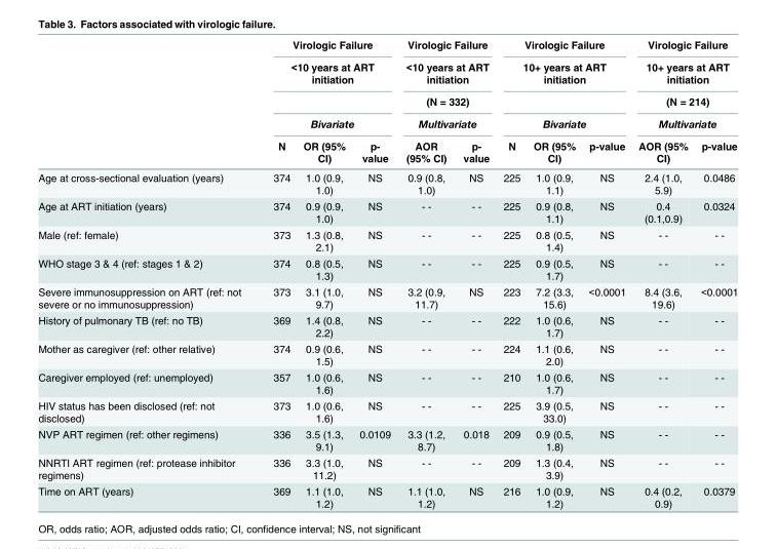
<table><thead><tr><td rowspan="5"></td><td rowspan="2" colspan="3">Virologic Failure &lt;10 years at ART initiation</td><td rowspan="4" colspan="2">Virologic Failure &lt;10 years at ART initiation (N = 332) Multivariate</td><td rowspan="2" colspan="3">Virologic Failure 10+ years at ART initiation</td><td rowspan="4" colspan="2">Virologic Failure 10+ years at ART initiation (N = 214) Multivariate</td></tr><tr></tr><tr><td></td><td></td><td></td><td></td><td></td><td></td></tr><tr><td colspan="3">Bivariate</td><td colspan="3">Bivariate</td></tr><tr><td>N</td><td>OR (95% CI)</td><td>p- value</td><td>AOR (95% CI)</td><td>p- value</td><td>N</td><td>OR (95% CI)</td><td>p-value</td><td>AOR (95% CI)</td><td>p-value</td></tr></thead><tbody><tr><td>Age at cross-sectional evaluation (years)</td><td>374</td><td>1.0 (0.9, 1.0)</td><td>NS</td><td>0.9 (0.8, 1.0)</td><td>NS</td><td>225</td><td>1.0 (0.9, 1.1)</td><td>NS</td><td>2.4 (1.0, 5.9)</td><td>0.0486</td></tr><tr><td>Age at ART initiation (years)</td><td>374</td><td>0.9 (0.9, 1.0)</td><td>NS</td><td>- -</td><td>- -</td><td>225</td><td>0.9 (0.8, 1.1)</td><td>NS</td><td>0.4 (0.1,0.9)</td><td>0.0324</td></tr><tr><td>Male (ref: female)</td><td>373</td><td>1.3 (0.8, 2.1)</td><td>NS</td><td>- -</td><td>- -</td><td>225</td><td>0.8 (0.5, 1.4)</td><td>NS</td><td>- -</td><td>- -</td></tr><tr><td>WHO stage 3 &amp; 4 (ref: stages 1 &amp; 2)</td><td>374</td><td>0.8 (0.5, 1.3)</td><td>NS</td><td>- -</td><td>- -</td><td>225</td><td>0.9 (0.5, 1.7)</td><td>NS</td><td>- -</td><td>- -</td></tr><tr><td>Severe immunosuppression on ART (ref: not severe or no immunosuppression)</td><td>373</td><td>3.1 (1.0, 9.7)</td><td>NS</td><td>3.2 (0.9, 11.7)</td><td>NS</td><td>223</td><td>7.2 (3.3, 15.6)</td><td>&lt;0.0001</td><td>8.4 (3.6, 19.6)</td><td>&lt;0.0001</td></tr><tr><td>History of pulmonary TB (ref: no TB)</td><td>369</td><td>1.4 (0.8, 2.2)</td><td>NS</td><td>- -</td><td>- -</td><td>222</td><td>1.0 (0.6, 1.7)</td><td>NS</td><td>- -</td><td>- -</td></tr><tr><td>Mother as caregiver (ref: other relative)</td><td>374</td><td>0.9 (0.6, 1.5)</td><td>NS</td><td>- -</td><td>- -</td><td>224</td><td>1.1 (0.6, 2.0)</td><td>NS</td><td>- -</td><td>- -</td></tr><tr><td>Caregiver employed (ref: unemployed)</td><td>357</td><td>1.0 (0.6, 1.6)</td><td>NS</td><td>- -</td><td>- -</td><td>210</td><td>1.0 (0.6, 1.7)</td><td>NS</td><td>- -</td><td>- -</td></tr><tr><td>HIV status has been disclosed (ref: not disclosed)</td><td>373</td><td>1.0 (0.6, 1.6)</td><td>NS</td><td>- -</td><td>- -</td><td>225</td><td>3.9 (0.5, 33.0)</td><td>NS</td><td>- -</td><td>- -</td></tr><tr><td>NVP ART regimen (ref: other regimens)</td><td>336</td><td>3.5 (1.3, 9.1)</td><td>0.0109</td><td>3.3 (1.2, 8.7)</td><td>0.018</td><td>209</td><td>0.9 (0.5, 1.8)</td><td>NS</td><td>- -</td><td>- -</td></tr><tr><td>NNRTI ART regimen (ref: protease inhibitor regimens)</td><td>336</td><td>3.3 (1.0, 11.2)</td><td>NS</td><td>- -</td><td>- -</td><td>209</td><td>1.3 (0.4, 3.9)</td><td>NS</td><td>- -</td><td>- -</td></tr><tr><td>Time on ART (years)</td><td>369</td><td>1.1 (1.0, 1.2)</td><td>NS</td><td>1.1 (1.0, 1.2)</td><td>NS</td><td>216</td><td>1.0 (0.9, 1.2)</td><td>NS</td><td>0.4 (0.2, 0.9)</td><td>0.0379</td></tr></tbody></table>